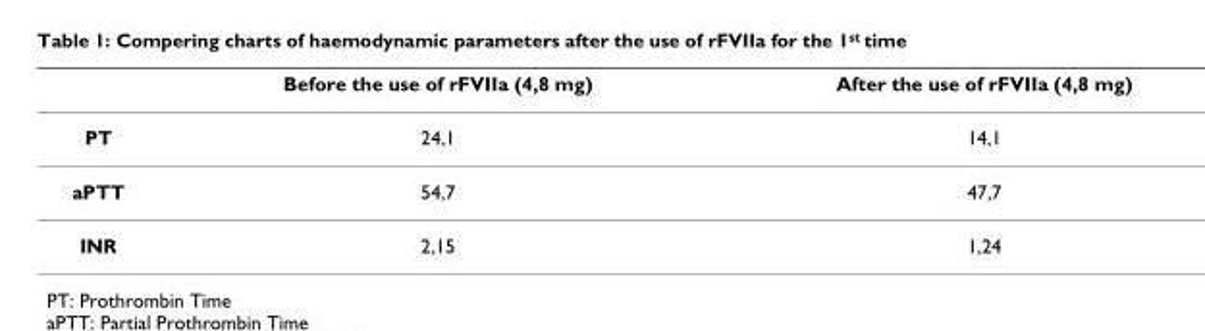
<table><thead><tr><td></td><td>Before the use of rFVIIa (4,8 mg)</td><td>After the use of rFVIIa (4,8 mg)</td></tr></thead><tbody><tr><td>PT</td><td>24,1</td><td>14,1</td></tr><tr><td>aPTT</td><td>54,7</td><td>47,7</td></tr><tr><td>INR</td><td>2,15</td><td>1,24</td></tr></tbody></table>